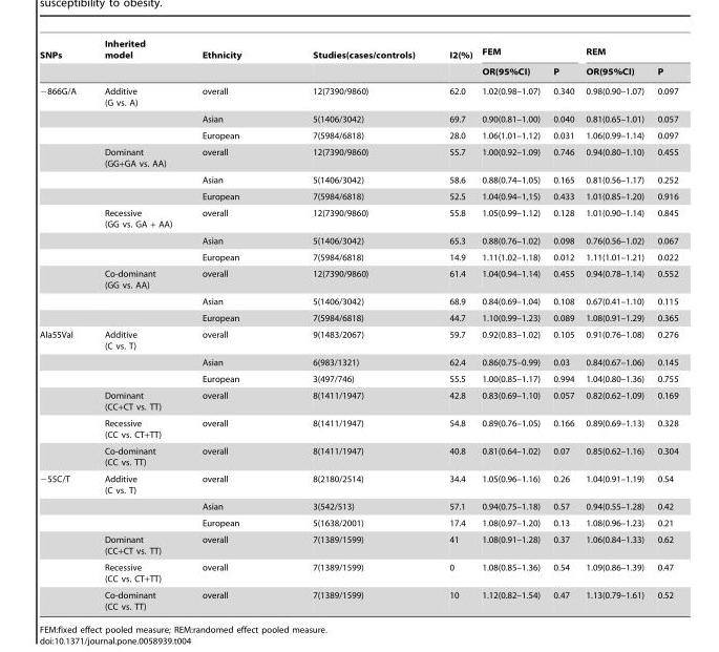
<table><thead><tr><td rowspan="2">SNPs</td><td rowspan="2">Inherited model</td><td rowspan="2">Ethnicity</td><td rowspan="2">Studies(cases/controls)</td><td rowspan="2">I2(%)</td><td colspan="2">FEM</td><td colspan="2">REM</td></tr><tr><td>OR(95%CI)</td><td>P</td><td>OR(95%CI)</td><td>P</td></tr></thead><tbody><tr><td rowspan="12">−866G/A</td><td>Additive (G vs. A)</td><td>overall</td><td>12(7390/9860)</td><td>62.0</td><td>1.02(0.98–1.07)</td><td>0.340</td><td>0.98(0.90–1.07)</td><td>0.097</td></tr><tr><td></td><td>Asian</td><td>5(1406/3042)</td><td>69.7</td><td>0.90(0.81–1.00)</td><td>0.040</td><td>0.81(0.65–1.01)</td><td>0.057</td></tr><tr><td></td><td>European</td><td>7(5984/6818)</td><td>28.0</td><td>1.06(1.01–1.12)</td><td>0.031</td><td>1.06(0.99–1.14)</td><td>0.097</td></tr><tr><td>Dominant (GG+GA vs. AA)</td><td>overall</td><td>12(7390/9860)</td><td>55.7</td><td>1.00(0.92–1.09)</td><td>0.746</td><td>0.94(0.80–1.10)</td><td>0.455</td></tr><tr><td></td><td>Asian</td><td>5(1406/3042)</td><td>58.6</td><td>0.88(0.74–1.05)</td><td>0.165</td><td>0.81(0.56–1.17)</td><td>0.252</td></tr><tr><td></td><td>European</td><td>7(5984/6818)</td><td>52.5</td><td>1.04(0.94–1,15)</td><td>0.433</td><td>1.01(0.85–1.20)</td><td>0.916</td></tr><tr><td>Recessive (GG vs. GA + AA)</td><td>overall</td><td>12(7390/9860)</td><td>55.8</td><td>1.05(0.99–1.12)</td><td>0.128</td><td>1.01(0.90–1.14)</td><td>0.845</td></tr><tr><td></td><td>Asian</td><td>5(1406/3042)</td><td>65.3</td><td>0.88(0.76–1.02)</td><td>0.098</td><td>0.76(0.56–1.02)</td><td>0.067</td></tr><tr><td></td><td>European</td><td>7(5984/6818)</td><td>14.9</td><td>1.11(1.02–1.18)</td><td>0.012</td><td>1.11(1.01–1.21)</td><td>0.022</td></tr><tr><td>Co-dominant (GG vs. AA)</td><td>overall</td><td>12(7390/9860)</td><td>61.4</td><td>1.04(0.94–1.14)</td><td>0.455</td><td>0.94(0.78–1.14)</td><td>0.552</td></tr><tr><td></td><td>Asian</td><td>5(1406/3042)</td><td>68.9</td><td>0.84(0.69–1.04)</td><td>0.108</td><td>0.67(0.41–1.10)</td><td>0.115</td></tr><tr><td></td><td>European</td><td>7(5984/6818)</td><td>44.7</td><td>1.10(0.99–1.23)</td><td>0.089</td><td>1.08(0.91–1.29)</td><td>0.365</td></tr><tr><td rowspan="6">Ala55Val</td><td>Additive (C vs. T)</td><td>overall</td><td>9(1483/2067)</td><td>59.7</td><td>0.92(0.83–1.02)</td><td>0.105</td><td>0.91(0.76–1.08)</td><td>0.276</td></tr><tr><td></td><td>Asian</td><td>6(983/1321)</td><td>62.4</td><td>0.86(0.75–0.99)</td><td>0.03</td><td>0.84(0.67–1.06)</td><td>0.145</td></tr><tr><td></td><td>European</td><td>3(497/746)</td><td>55.5</td><td>1.00(0.85–1.17)</td><td>0.994</td><td>1.04(0.80–1.36)</td><td>0.755</td></tr><tr><td>Dominant (CC+CT vs. TT)</td><td>overall</td><td>8(1411/1947)</td><td>42.8</td><td>0.83(0.69–1.10)</td><td>0.057</td><td>0.82(0.62–1.09)</td><td>0.169</td></tr><tr><td>Recessive (CC vs. CT+TT)</td><td>overall</td><td>8(1411/1947)</td><td>54.8</td><td>0.89(0.76–1.05)</td><td>0.166</td><td>0.89(0.69–1.13)</td><td>0.328</td></tr><tr><td>Co-dominant (CC vs. TT)</td><td>overall</td><td>8(1411/1947)</td><td>40.8</td><td>0.81(0.64–1.02)</td><td>0.07</td><td>0.85(0.62–1.16)</td><td>0.304</td></tr><tr><td rowspan="6">−55C/T</td><td>Additive (C vs. T)</td><td>overall</td><td>8(2180/2514)</td><td>34.4</td><td>1.05(0.96–1.16)</td><td>0.26</td><td>1.04(0.91–1.19)</td><td>0.54</td></tr><tr><td></td><td>Asian</td><td>3(542/513)</td><td>57.1</td><td>0.94(0.75–1.18)</td><td>0.57</td><td>0.94(0.55–1.28)</td><td>0.42</td></tr><tr><td></td><td>European</td><td>5(1638/2001)</td><td>17.4</td><td>1.08(0.97–1.20)</td><td>0.13</td><td>1.08(0.96–1.23)</td><td>0.21</td></tr><tr><td>Dominant (CC+CT vs. TT)</td><td>overall</td><td>7(1389/1599)</td><td>41</td><td>1.08(0.91–1.28)</td><td>0.37</td><td>1.06(0.84–1.33)</td><td>0.62</td></tr><tr><td>Recessive (CC vs. CT+TT)</td><td>overall</td><td>7(1389/1599)</td><td>0</td><td>1.08(0.85–1.36)</td><td>0.54</td><td>1.09(0.86–1.39)</td><td>0.47</td></tr><tr><td>Co-dominant (CC vs. TT)</td><td>overall</td><td>7(1389/1599)</td><td>10</td><td>1.12(0.82–1.54)</td><td>0.47</td><td>1.13(0.79–1.61)</td><td>0.52</td></tr></tbody></table>